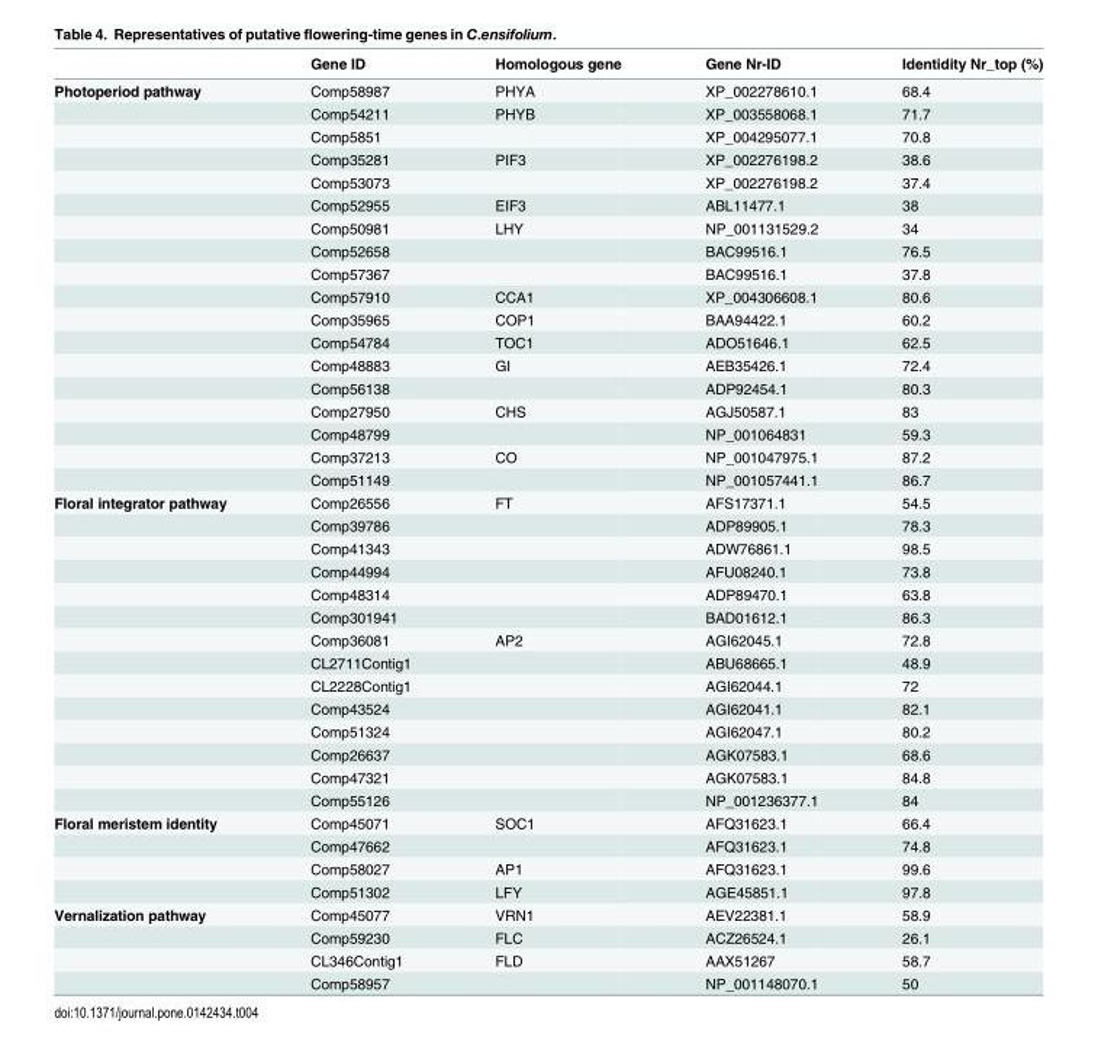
<table><thead><tr><td></td><td>Gene ID</td><td>Homologous gene</td><td>Gene Nr-ID</td><td>Identidity Nr_top (%)</td></tr></thead><tbody><tr><td rowspan="18">Photoperiod pathway</td><td>Comp58987</td><td>PHYA</td><td>XP_002278610.1</td><td>68.4</td></tr><tr><td>Comp54211</td><td>PHYB</td><td>XP_003558068.1</td><td>71.7</td></tr><tr><td>Comp5851</td><td></td><td>XP_004295077.1</td><td>70.8</td></tr><tr><td>Comp35281</td><td>PIF3</td><td>XP_002276198.2</td><td>38.6</td></tr><tr><td>Comp53073</td><td></td><td>XP_002276198.2</td><td>37.4</td></tr><tr><td>Comp52955</td><td>EIF3</td><td>ABL11477.1</td><td>38</td></tr><tr><td>Comp50981</td><td>LHY</td><td>NP_001131529.2</td><td>34</td></tr><tr><td>Comp52658</td><td></td><td>BAC99516.1</td><td>76.5</td></tr><tr><td>Comp57367</td><td></td><td>BAC99516.1</td><td>37.8</td></tr><tr><td>Comp57910</td><td>CCA1</td><td>XP_004306608.1</td><td>80.6</td></tr><tr><td>Comp35965</td><td>COP1</td><td>BAA94422.1</td><td>60.2</td></tr><tr><td>Comp54784</td><td>TOC1</td><td>ADO51646.1</td><td>62.5</td></tr><tr><td>Comp48883</td><td>GI</td><td>AEB35426.1</td><td>72.4</td></tr><tr><td>Comp56138</td><td></td><td>ADP92454.1</td><td>80.3</td></tr><tr><td>Comp27950</td><td>CHS</td><td>AGJ50587.1</td><td>83</td></tr><tr><td>Comp48799</td><td></td><td>NP_001064831</td><td>59.3</td></tr><tr><td>Comp37213</td><td>CO</td><td>NP_001047975.1</td><td>87.2</td></tr><tr><td>Comp51149</td><td></td><td>NP_001057441.1</td><td>86.7</td></tr><tr><td rowspan="14">Floral integrator pathway</td><td>Comp26556</td><td>FT</td><td>AFS17371.1</td><td>54.5</td></tr><tr><td>Comp39786</td><td></td><td>ADP89905.1</td><td>78.3</td></tr><tr><td>Comp41343</td><td></td><td>ADW76861.1</td><td>98.5</td></tr><tr><td>Comp44994</td><td></td><td>AFU08240.1</td><td>73.8</td></tr><tr><td>Comp48314</td><td></td><td>ADP89470.1</td><td>63.8</td></tr><tr><td>Comp301941</td><td></td><td>BAD01612.1</td><td>86.3</td></tr><tr><td>Comp36081</td><td>AP2</td><td>AGI62045.1</td><td>72.8</td></tr><tr><td>CL2711Contig1</td><td></td><td>ABU68665.1</td><td>48.9</td></tr><tr><td>CL2228Contig1</td><td></td><td>AGI62044.1</td><td>72</td></tr><tr><td>Comp43524</td><td></td><td>AGI62041.1</td><td>82.1</td></tr><tr><td>Comp51324</td><td></td><td>AGI62047.1</td><td>80.2</td></tr><tr><td>Comp26637</td><td></td><td>AGK07583.1</td><td>68.6</td></tr><tr><td>Comp47321</td><td></td><td>AGK07583.1</td><td>84.8</td></tr><tr><td>Comp55126</td><td></td><td>NP_001236377.1</td><td>84</td></tr><tr><td rowspan="4">Floral meristem identity</td><td>Comp45071</td><td>SOC1</td><td>AFQ31623.1</td><td>66.4</td></tr><tr><td>Comp47662</td><td></td><td>AFQ31623.1</td><td>74.8</td></tr><tr><td>Comp58027</td><td>AP1</td><td>AFQ31623.1</td><td>99.6</td></tr><tr><td>Comp51302</td><td>LFY</td><td>AGE45851.1</td><td>97.8</td></tr><tr><td rowspan="4">Vernalization pathway</td><td>Comp45077</td><td>VRN1</td><td>AEV22381.1</td><td>58.9</td></tr><tr><td>Comp59230</td><td>FLC</td><td>ACZ26524.1</td><td>26.1</td></tr><tr><td>CL346Contig1</td><td>FLD</td><td>AAX51267</td><td>58.7</td></tr><tr><td>Comp58957</td><td></td><td>NP_001148070.1</td><td>50</td></tr></tbody></table>